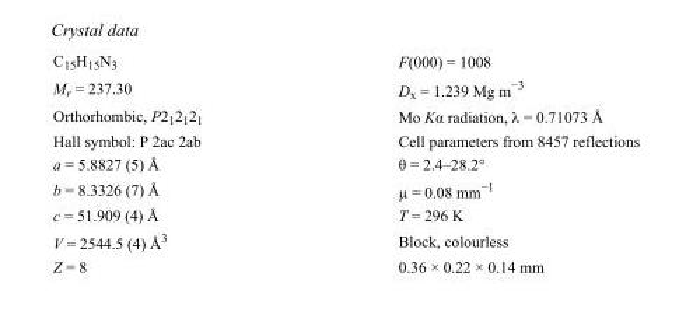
<table><tbody><tr><td>C<sub>15</sub>H<sub>15</sub>N<sub>3</sub></td><td>F(000) = 1008</td></tr><tr><td>M<sub>r</sub> = 237.30</td><td>D<sub>x</sub> = 1.239 Mg m<sup>−3</sup></td></tr><tr><td>Orthorhombic, P2<sub>1</sub>2<sub>1</sub>2<sub>1</sub></td><td>Mo Kα radiation, λ = 0.71073 Å</td></tr><tr><td>Hall symbol: P 2ac 2ab</td><td>Cell parameters from 8457 reflections</td></tr><tr><td>a = 5.8827 (5) Å</td><td>θ = 2.4–28.2°</td></tr><tr><td>b = 8.3326 (7) Å</td><td>µ = 0.08 mm<sup>−1</sup></td></tr><tr><td>c = 51.909 (4) Å</td><td>T = 296 K</td></tr><tr><td>V = 2544.5 (4) Å<sup>3</sup></td><td>Block, colourless</td></tr><tr><td>Z = 8</td><td>0.36 × 0.22 × 0.14 mm</td></tr></tbody></table>